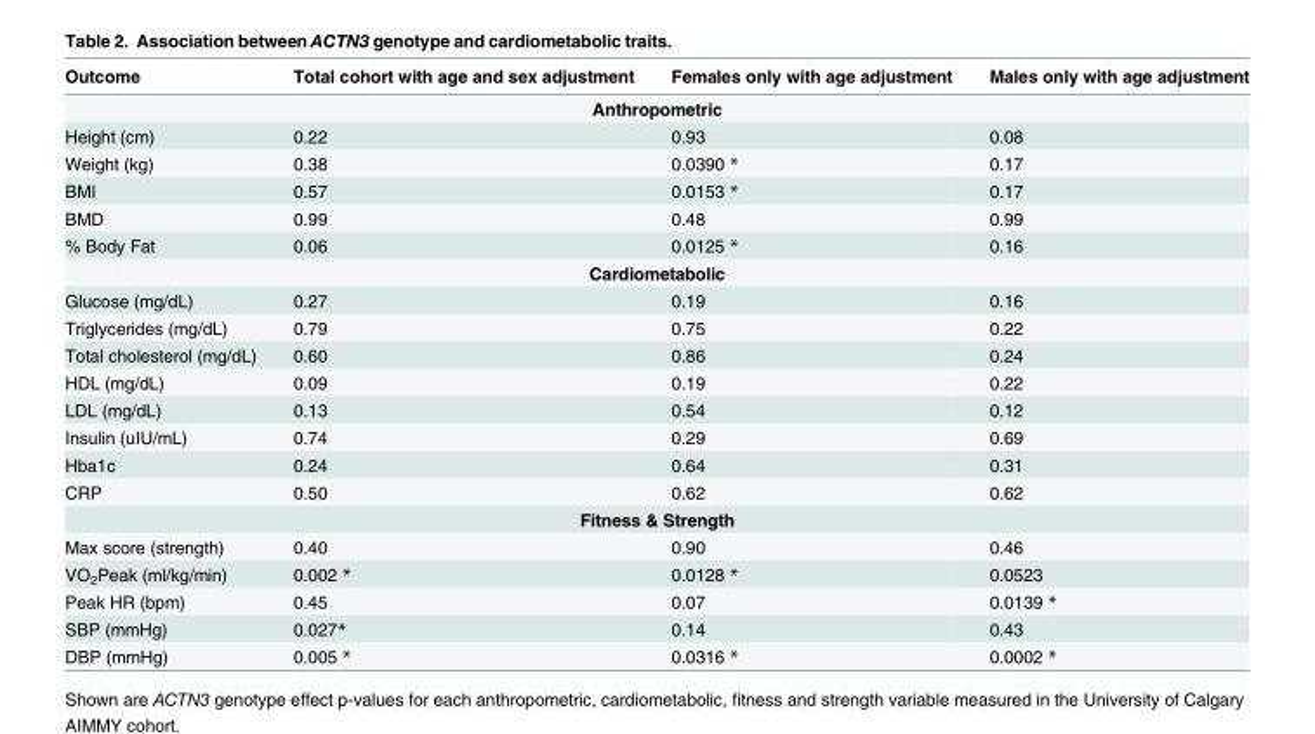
<table><thead><tr><td>Outcome</td><td>Total cohort with age and sex adjustment</td><td>Females only with age adjustment</td><td>Males only with age adjustment</td></tr></thead><tbody><tr><td colspan="4">Anthropometric</td></tr><tr><td>Height (cm)</td><td>0.22</td><td>0.93</td><td>0.08</td></tr><tr><td>Weight (kg)</td><td>0.38</td><td>0.0390 *</td><td>0.17</td></tr><tr><td>BMI</td><td>0.57</td><td>0.0153 *</td><td>0.17</td></tr><tr><td>BMD</td><td>0.99</td><td>0.48</td><td>0.99</td></tr><tr><td>% Body Fat</td><td>0.06</td><td>0.0125 *</td><td>0.16</td></tr><tr><td colspan="4">Cardiometabolic</td></tr><tr><td>Glucose (mg/dL)</td><td>0.27</td><td>0.19</td><td>0.16</td></tr><tr><td>Triglycerides (mg/dL)</td><td>0.79</td><td>0.75</td><td>0.22</td></tr><tr><td>Total cholesterol (mg/dL)</td><td>0.60</td><td>0.86</td><td>0.24</td></tr><tr><td>HDL (mg/dL)</td><td>0.09</td><td>0.19</td><td>0.22</td></tr><tr><td>LDL (mg/dL)</td><td>0.13</td><td>0.54</td><td>0.12</td></tr><tr><td>Insulin (uIU/mL)</td><td>0.74</td><td>0.29</td><td>0.69</td></tr><tr><td>Hba1c</td><td>0.24</td><td>0.64</td><td>0.31</td></tr><tr><td>CRP</td><td>0.50</td><td>0.62</td><td>0.62</td></tr><tr><td colspan="4">Fitness &amp; Strength</td></tr><tr><td>Max score (strength)</td><td>0.40</td><td>0.90</td><td>0.46</td></tr><tr><td>VO<sub>2</sub>Peak (ml/kg/min)</td><td>0.002 *</td><td>0.0128 *</td><td>0.0523</td></tr><tr><td>Peak HR (bpm)</td><td>0.45</td><td>0.07</td><td>0.0139 *</td></tr><tr><td>SBP (mmHg)</td><td>0.027*</td><td>0.14</td><td>0.43</td></tr><tr><td>DBP (mmHg)</td><td>0.005 *</td><td>0.0316 *</td><td>0.0002 *</td></tr></tbody></table>